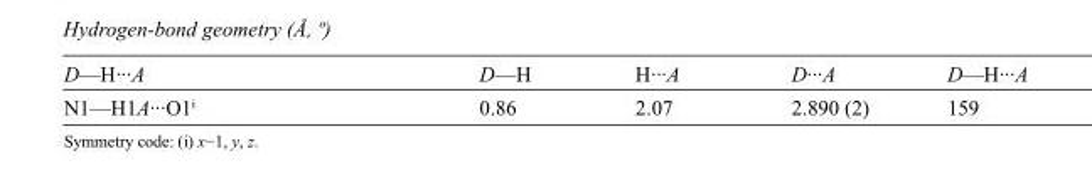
<table><tbody><tr><td>D—H···A</td><td>D—H</td><td>H···A</td><td>D···A</td><td>D—H···A</td></tr><tr><td>N1—H1A···O1<sup>i</sup></td><td>0.86</td><td>2.07</td><td>2.890 (2)</td><td>159</td></tr></tbody></table>